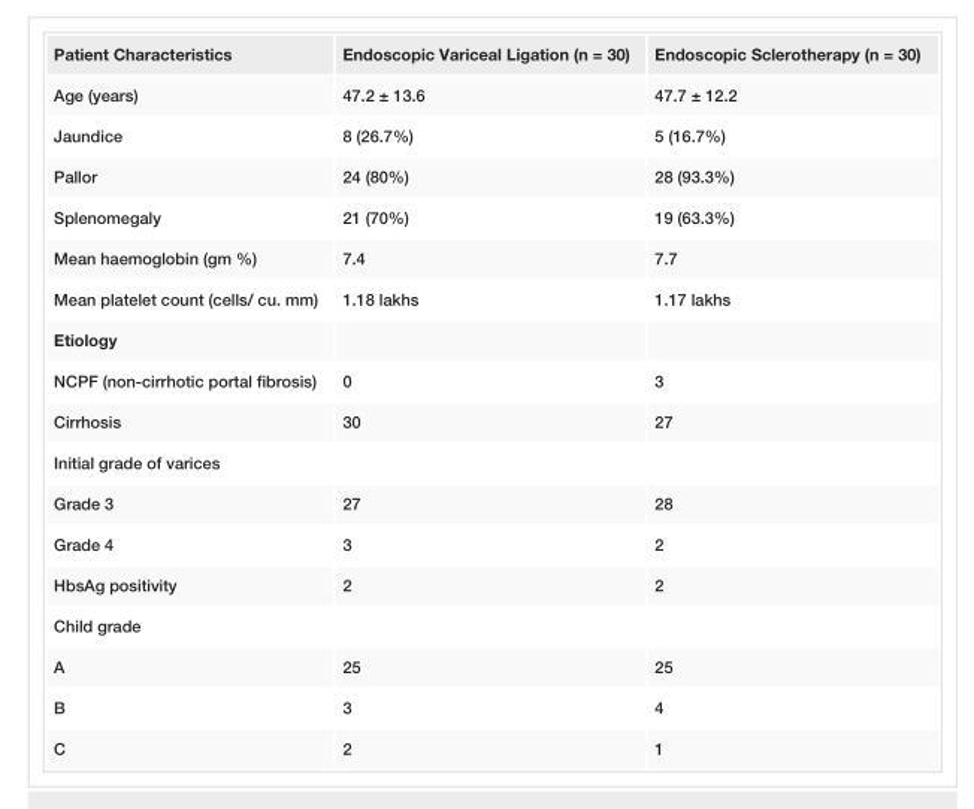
<table><tbody><tr><td>Patient Characteristics</td><td>Endoscopic Variceal Ligation (n = 30)</td><td>Endoscopic Sclerotherapy (n = 30)</td></tr><tr><td>Age (years)</td><td>47.2 ± 13.6</td><td>47.7 ± 12.2</td></tr><tr><td>Jaundice</td><td>8 (26.7%)</td><td>5 (16.7%)</td></tr><tr><td>Pallor</td><td>24 (80%)</td><td>28 (93.3%)</td></tr><tr><td>Splenomegaly</td><td>21 (70%)</td><td>19 (63.3%)</td></tr><tr><td>Mean haemoglobin (gm %)</td><td>7.4</td><td>7.7</td></tr><tr><td>Mean platelet count (cells/ cu. mm)</td><td>1.18 lakhs</td><td>1.17 lakhs</td></tr><tr><td colspan="3">Etiology</td></tr><tr><td>NCPF (non-cirrhotic portal fibrosis)</td><td>0</td><td>3</td></tr><tr><td>Cirrhosis</td><td>30</td><td>27</td></tr><tr><td colspan="3">Initial grade of varices</td></tr><tr><td>Grade 3</td><td>27</td><td>28</td></tr><tr><td>Grade 4</td><td>3</td><td>2</td></tr><tr><td>HbsAg positivity</td><td>2</td><td>2</td></tr><tr><td colspan="3">Child grade</td></tr><tr><td>A</td><td>25</td><td>25</td></tr><tr><td>B</td><td>3</td><td>4</td></tr><tr><td>C</td><td>2</td><td>1</td></tr></tbody></table>